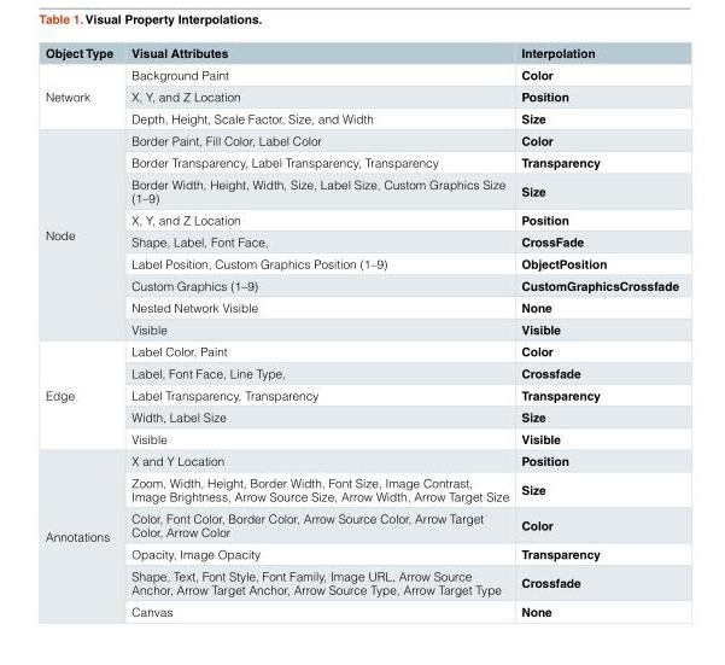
<table><thead><tr><td>Object Type</td><td>Visual Attributes</td><td>Interpolation</td></tr></thead><tbody><tr><td rowspan="3">Network</td><td>Background Paint</td><td>Color</td></tr><tr><td>X, Y, and Z Location</td><td>Position</td></tr><tr><td>Depth, Height, Scale Factor, Size, and Width</td><td>Size</td></tr><tr><td rowspan="9">Node</td><td>Border Paint, Fill Color, Label Color</td><td>Color</td></tr><tr><td>Border Transparency, Label Transparency, Transparency</td><td>Transparency</td></tr><tr><td>Border Width, Height, Width, Size, Label Size, Custom Graphics Size (1–9)</td><td>Size</td></tr><tr><td>X, Y, and Z Location</td><td>Position</td></tr><tr><td>Shape, Label, Font Face,</td><td>CrossFade</td></tr><tr><td>Label Position, Custom Graphics Position (1–9)</td><td>ObjectPosition</td></tr><tr><td>Custom Graphics (1–9)</td><td>CustomGraphicsCrossfade</td></tr><tr><td>Nested Network Visible</td><td>None</td></tr><tr><td>Visible</td><td>Visible</td></tr><tr><td rowspan="5">Edge</td><td>Label Color, Paint</td><td>Color</td></tr><tr><td>Label, Font Face, Line Type,</td><td>Crossfade</td></tr><tr><td>Label Transparency, Transparency</td><td>Transparency</td></tr><tr><td>Width, Label Size</td><td>Size</td></tr><tr><td>Visible</td><td>Visible</td></tr><tr><td rowspan="6">Annotations</td><td>X and Y Location</td><td>Position</td></tr><tr><td>Zoom, Width, Height, Border Width, Font Size, Image Contrast, Image Brightness, Arrow Source Size, Arrow Width, Arrow Target Size</td><td>Size</td></tr><tr><td>Color, Font Color, Border Color, Arrow Source Color, Arrow Target Color, Arrow Color</td><td>Color</td></tr><tr><td>Opacity, Image Opacity</td><td>Transparency</td></tr><tr><td>Shape, Text, Font Style, Font Family, Image URL, Arrow Source Anchor, Arrow Target Anchor, Arrow Source Type, Arrow Target Type</td><td>Crossfade</td></tr><tr><td>Canvas</td><td>None</td></tr></tbody></table>